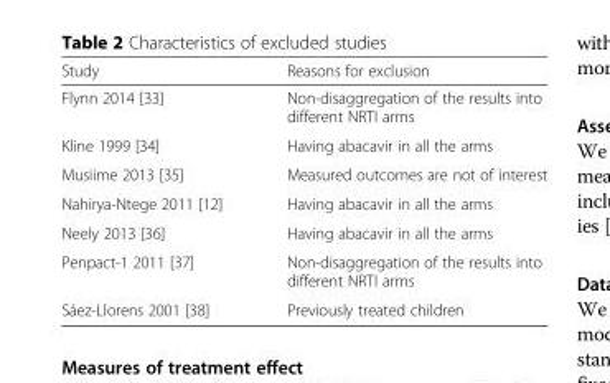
<table><thead><tr><td>Study</td><td>Reasons for exclusion</td></tr></thead><tbody><tr><td>Flynn 2014 [33]</td><td>Non-disaggregation of the results into different NRTI arms</td></tr><tr><td>Kline 1999 [34]</td><td>Having abacavir in all the arms</td></tr><tr><td>Musiime 2013 [35]</td><td>Measured outcomes are not of interest</td></tr><tr><td>Nahirya-Ntege 2011 [12]</td><td>Having abacavir in all the arms</td></tr><tr><td>Neely 2013 [36]</td><td>Having abacavir in all the arms</td></tr><tr><td>Penpact-1 2011 [37]</td><td>Non-disaggregation of the results into different NRTI arms</td></tr><tr><td>Sáez-Llorens 2001 [38]</td><td>Previously treated children</td></tr></tbody></table>